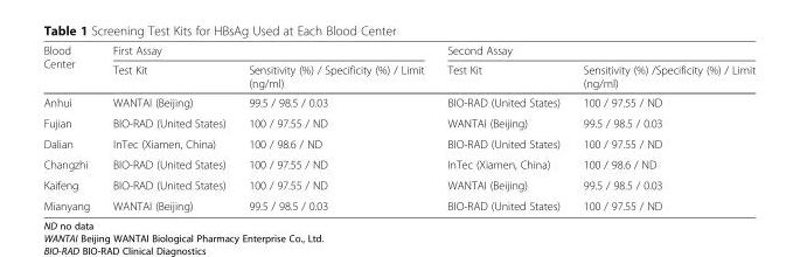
<table><thead><tr><td rowspan="2">Blood Center</td><td colspan="2">First Assay</td><td colspan="2">Second Assay</td></tr><tr><td>Test Kit</td><td>Sensitivity (%) / Specificity (%) / Limit (ng/ml)</td><td>Test Kit</td><td>Sensitivity (%) /Specificity (%) / Limit (ng/ml)</td></tr></thead><tbody><tr><td>Anhui</td><td>WANTAI (Beijing)</td><td>99.5 / 98.5 / 0.03</td><td>BIO-RAD (United States)</td><td>100 / 97.55 / ND</td></tr><tr><td>Fujian</td><td>BIO-RAD (United States)</td><td>100 / 97.55 / ND</td><td>WANTAI (Beijing)</td><td>99.5 / 98.5 / 0.03</td></tr><tr><td>Dalian</td><td>InTec (Xiamen, China)</td><td>100 / 98.6 / ND</td><td>BIO-RAD (United States)</td><td>100 / 97.55 / ND</td></tr><tr><td>Changzhi</td><td>BIO-RAD (United States)</td><td>100 / 97.55 / ND</td><td>InTec (Xiamen, China)</td><td>100 / 98.6 / ND</td></tr><tr><td>Kaifeng</td><td>BIO-RAD (United States)</td><td>100 / 97.55 / ND</td><td>WANTAI (Beijing)</td><td>99.5 / 98.5 / 0.03</td></tr><tr><td>Mianyang</td><td>WANTAI (Beijing)</td><td>99.5 / 98.5 / 0.03</td><td>BIO-RAD (United States)</td><td>100 / 97.55 / ND</td></tr></tbody></table>